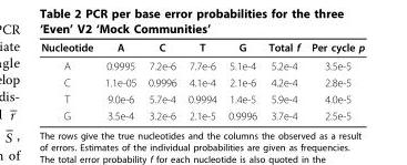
<table><thead><tr><td>Nucleotide</td><td>A</td><td>C</td><td>T</td><td>G</td><td>Total f</td><td>Per cycle p</td></tr></thead><tbody><tr><td>A</td><td>0.9995</td><td>7.2e-6</td><td>7.7e-6</td><td>5.1e-4</td><td>5.2e-4</td><td>3.5e-5</td></tr><tr><td>C</td><td>1.1e-05</td><td>0.9996</td><td>4.1e-4</td><td>2.1e-6</td><td>4.2e-4</td><td>2.8e-5</td></tr><tr><td>T</td><td>9.0e-6</td><td>5.7e-4</td><td>0.9994</td><td>1.4e-5</td><td>5.9e-4</td><td>4.0e-5</td></tr><tr><td>G</td><td>3.5e-4</td><td>3.2e-6</td><td>2.1e-5</td><td>0.9996</td><td>3.7e-4</td><td>2.5e-5</td></tr></tbody></table>